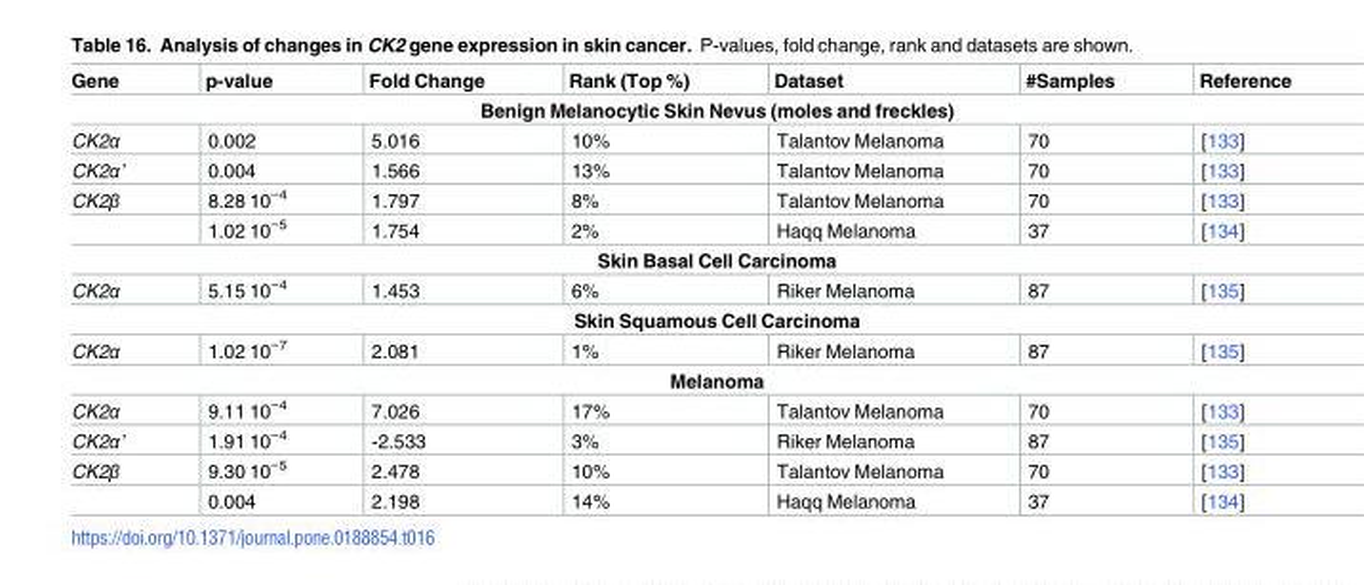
<table><thead><tr><td>Gene</td><td>p-value</td><td>Fold Change</td><td>Rank (Top %)</td><td>Dataset</td><td>#Samples</td><td>Reference</td></tr></thead><tbody><tr><td colspan="7">Benign Melanocytic Skin Nevus (moles and freckles)</td></tr><tr><td>CK2α</td><td>0.002</td><td>5.016</td><td>10%</td><td>Talantov Melanoma</td><td>70</td><td>[133]</td></tr><tr><td>CK2α’</td><td>0.004</td><td>1.566</td><td>13%</td><td>Talantov Melanoma</td><td>70</td><td>[133]</td></tr><tr><td rowspan="2">CK2β</td><td>8.28 10<sup>−4</sup></td><td>1.797</td><td>8%</td><td>Talantov Melanoma</td><td>70</td><td>[133]</td></tr><tr><td>1.02 10<sup>−5</sup></td><td>1.754</td><td>2%</td><td>Haqq Melanoma</td><td>37</td><td>[134]</td></tr><tr><td colspan="7">Skin Basal Cell Carcinoma</td></tr><tr><td>CK2α</td><td>5.15 10<sup>−4</sup></td><td>1.453</td><td>6%</td><td>Riker Melanoma</td><td>87</td><td>[135]</td></tr><tr><td colspan="7">Skin Squamous Cell Carcinoma</td></tr><tr><td>CK2α</td><td>1.02 10<sup>−7</sup></td><td>2.081</td><td>1%</td><td>Riker Melanoma</td><td>87</td><td>[135]</td></tr><tr><td colspan="7">Melanoma</td></tr><tr><td>CK2α</td><td>9.11 10<sup>−4</sup></td><td>7.026</td><td>17%</td><td>Talantov Melanoma</td><td>70</td><td>[133]</td></tr><tr><td>CK2α’</td><td>1.91 10<sup>−4</sup></td><td>-2.533</td><td>3%</td><td>Riker Melanoma</td><td>87</td><td>[135]</td></tr><tr><td rowspan="2">CK2β</td><td>9.30 10<sup>−5</sup></td><td>2.478</td><td>10%</td><td>Talantov Melanoma</td><td>70</td><td>[133]</td></tr><tr><td>0.004</td><td>2.198</td><td>14%</td><td>Haqq Melanoma</td><td>37</td><td>[134]</td></tr></tbody></table>